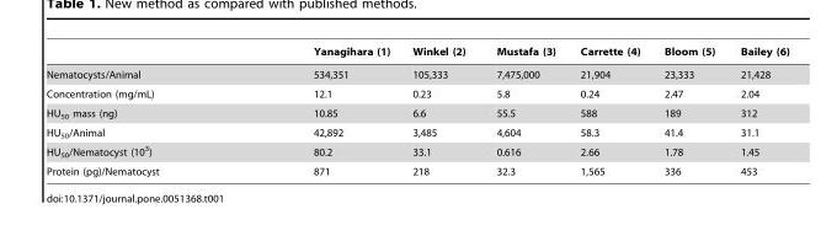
<table><thead><tr><td></td><td>Yanagihara (1)</td><td>Winkel (2)</td><td>Mustafa (3)</td><td>Carrette (4)</td><td>Bloom (5)</td><td>Bailey (6)</td></tr></thead><tbody><tr><td>Nematocysts/Animal</td><td>534,351</td><td>105,333</td><td>7,475,000</td><td>21,904</td><td>23,333</td><td>21,428</td></tr><tr><td>Concentration (mg/mL)</td><td>12.1</td><td>0.23</td><td>5.8</td><td>0.24</td><td>2.47</td><td>2.04</td></tr><tr><td>HU<sub>50</sub> mass (ng)</td><td>10.85</td><td>6.6</td><td>55.5</td><td>588</td><td>189</td><td>312</td></tr><tr><td>HU<sub>50</sub>/Animal</td><td>42,892</td><td>3,485</td><td>4,604</td><td>58.3</td><td>41.4</td><td>31.1</td></tr><tr><td>HU<sub>50</sub>/Nematocyst (10<sup>3</sup>)</td><td>80.2</td><td>33.1</td><td>0.616</td><td>2.66</td><td>1.78</td><td>1.45</td></tr><tr><td>Protein (pg)/Nematocyst</td><td>871</td><td>218</td><td>32.3</td><td>1,565</td><td>336</td><td>453</td></tr></tbody></table>